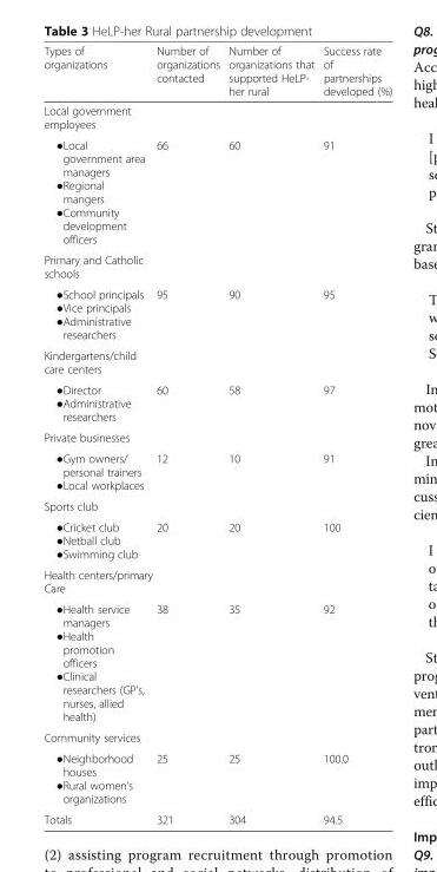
<table><thead><tr><td>Types of organizations</td><td>Number of organizations contacted</td><td>Number of organizations that supported HeLP- her rural</td><td>Success rate of partnerships developed (%)</td></tr></thead><tbody><tr><td colspan="4">Local government employees</td></tr><tr><td>●Local government area managers ●Regional mangers ●Community development officers</td><td>66</td><td>60</td><td>91</td></tr><tr><td colspan="4">Primary and Catholic schools</td></tr><tr><td>●School principals ●Vice principals ●Administrative researchers</td><td>95</td><td>90</td><td>95</td></tr><tr><td colspan="4">Kindergartens/child care centers</td></tr><tr><td>●Director ●Administrative researchers</td><td>60</td><td>58</td><td>97</td></tr><tr><td colspan="4">Private businesses</td></tr><tr><td>●Gym owners/ personal trainers ●Local workplaces</td><td>12</td><td>10</td><td>91</td></tr><tr><td colspan="4">Sports club</td></tr><tr><td>●Cricket club ●Netball club ●Swimming club</td><td>20</td><td>20</td><td>100</td></tr><tr><td colspan="4">Health centers/primary Care</td></tr><tr><td>●Health service managers ●Health promotion officers ●Clinical researchers (GP’s, nurses, allied health)</td><td>38</td><td>35</td><td>92</td></tr><tr><td colspan="4">Community services</td></tr><tr><td>●Neighborhood houses ●Rural women’s organizations</td><td>25</td><td>25</td><td>100.0</td></tr><tr><td>Totals</td><td>321</td><td>304</td><td>94.5</td></tr></tbody></table>